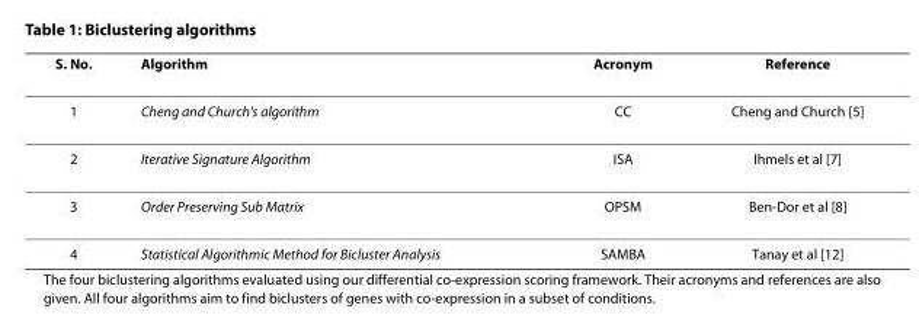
<table><thead><tr><td>S. No.</td><td>Algorithm</td><td>Acronym</td><td>Reference</td></tr></thead><tbody><tr><td>1</td><td>Cheng and Church&#x27;s algorithm</td><td>CC</td><td>Cheng and Church [5]</td></tr><tr><td>2</td><td>Iterative Signature Algorithm</td><td>ISA</td><td>Ihmels et al [7]</td></tr><tr><td>3</td><td>Order Preserving Sub Matrix</td><td>OPSM</td><td>Ben-Dor et al [8]</td></tr><tr><td>4</td><td>Statistical Algorithmic Method for Bicluster Analysis</td><td>SAMBA</td><td>Tanay et al [12]</td></tr></tbody></table>